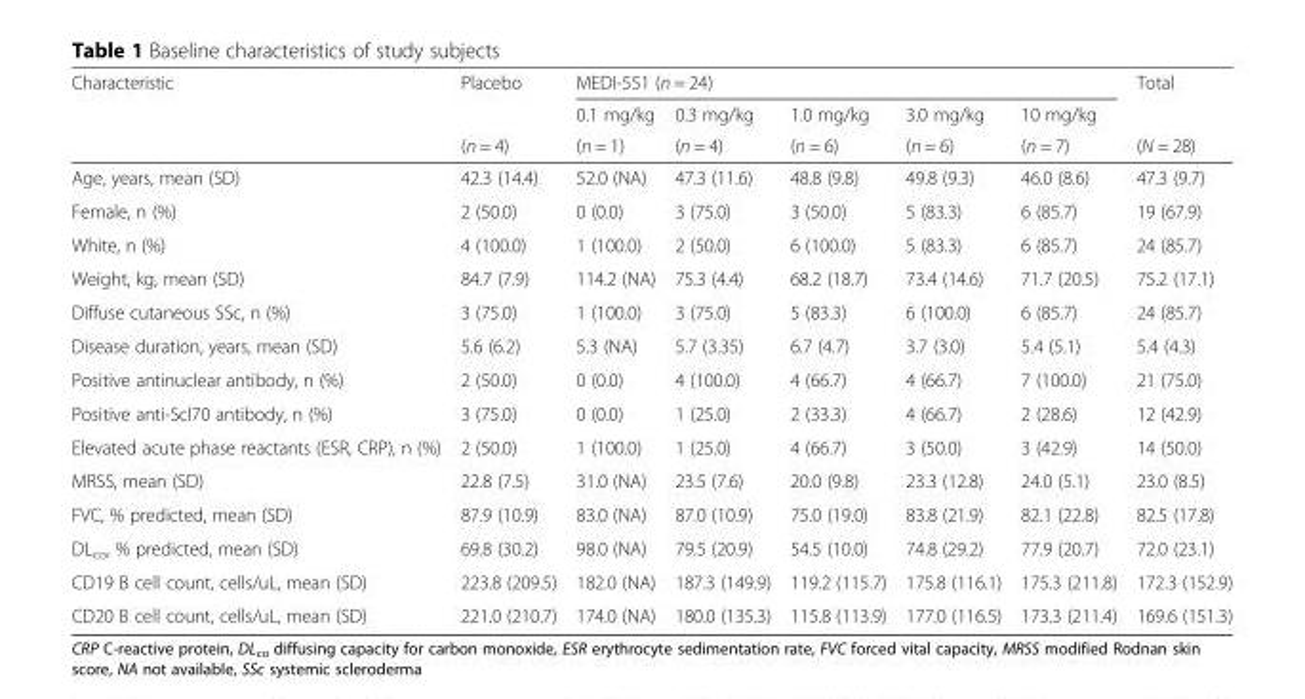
<table><thead><tr><td rowspan="3">Characteristic</td><td rowspan="3">Placebo (n = 4)</td><td colspan="5">MEDI-551 (n = 24)</td><td rowspan="3">Total (N = 28)</td></tr><tr><td rowspan="2">0.1 mg/kg (n = 1)</td><td rowspan="2">0.3 mg/kg (n = 4)</td><td rowspan="2">1.0 mg/kg (n = 6)</td><td rowspan="2">3.0 mg/kg (n = 6)</td><td rowspan="2">10 mg/kg (n = 7)</td></tr><tr></tr></thead><tbody><tr><td>Age, years, mean (SD)</td><td>42.3 (14.4)</td><td>52.0 (NA)</td><td>47.3 (11.6)</td><td>48.8 (9.8)</td><td>49.8 (9.3)</td><td>46.0 (8.6)</td><td>47.3 (9.7)</td></tr><tr><td>Female, n (%)</td><td>2 (50.0)</td><td>0 (0.0)</td><td>3 (75.0)</td><td>3 (50.0)</td><td>5 (83.3)</td><td>6 (85.7)</td><td>19 (67.9)</td></tr><tr><td>White, n (%)</td><td>4 (100.0)</td><td>1 (100.0)</td><td>2 (50.0)</td><td>6 (100.0)</td><td>5 (83.3)</td><td>6 (85.7)</td><td>24 (85.7)</td></tr><tr><td>Weight, kg, mean (SD)</td><td>84.7 (7.9)</td><td>114.2 (NA)</td><td>75.3 (4.4)</td><td>68.2 (18.7)</td><td>73.4 (14.6)</td><td>71.7 (20.5)</td><td>75.2 (17.1)</td></tr><tr><td>Diffuse cutaneous SSc, n (%)</td><td>3 (75.0)</td><td>1 (100.0)</td><td>3 (75.0)</td><td>5 (83.3)</td><td>6 (100.0)</td><td>6 (85.7)</td><td>24 (85.7)</td></tr><tr><td>Disease duration, years, mean (SD)</td><td>5.6 (6.2)</td><td>5.3 (NA)</td><td>5.7 (3.35)</td><td>6.7 (4.7)</td><td>3.7 (3.0)</td><td>5.4 (5.1)</td><td>5.4 (4.3)</td></tr><tr><td>Positive antinuclear antibody, n (%)</td><td>2 (50.0)</td><td>0 (0.0)</td><td>4 (100.0)</td><td>4 (66.7)</td><td>4 (66.7)</td><td>7 (100.0)</td><td>21 (75.0)</td></tr><tr><td>Positive anti-Scl70 antibody, n (%)</td><td>3 (75.0)</td><td>0 (0.0)</td><td>1 (25.0)</td><td>2 (33.3)</td><td>4 (66.7)</td><td>2 (28.6)</td><td>12 (42.9)</td></tr><tr><td>Elevated acute phase reactants (ESR, CRP), n (%)</td><td>2 (50.0)</td><td>1 (100.0)</td><td>1 (25.0)</td><td>4 (66.7)</td><td>3 (50.0)</td><td>3 (42.9)</td><td>14 (50.0)</td></tr><tr><td>MRSS, mean (SD)</td><td>22.8 (7.5)</td><td>31.0 (NA)</td><td>23.5 (7.6)</td><td>20.0 (9.8)</td><td>23.3 (12.8)</td><td>24.0 (5.1)</td><td>23.0 (8.5)</td></tr><tr><td>FVC, % predicted, mean (SD)</td><td>87.9 (10.9)</td><td>83.0 (NA)</td><td>87.0 (10.9)</td><td>75.0 (19.0)</td><td>83.8 (21.9)</td><td>82.1 (22.8)</td><td>82.5 (17.8)</td></tr><tr><td>DL<sub>co</sub>, % predicted, mean (SD)</td><td>69.8 (30.2)</td><td>98.0 (NA)</td><td>79.5 (20.9)</td><td>54.5 (10.0)</td><td>74.8 (29.2)</td><td>77.9 (20.7)</td><td>72.0 (23.1)</td></tr><tr><td>CD19 B cell count, cells/uL, mean (SD)</td><td>223.8 (209.5)</td><td>182.0 (NA)</td><td>187.3 (149.9)</td><td>119.2 (115.7)</td><td>175.8 (116.1)</td><td>175.3 (211.8)</td><td>172.3 (152.9)</td></tr><tr><td>CD20 B cell count, cells/uL, mean (SD)</td><td>221.0 (210.7)</td><td>174.0 (NA)</td><td>180.0 (135.3)</td><td>115.8 (113.9)</td><td>177.0 (116.5)</td><td>173.3 (211.4)</td><td>169.6 (151.3)</td></tr></tbody></table>